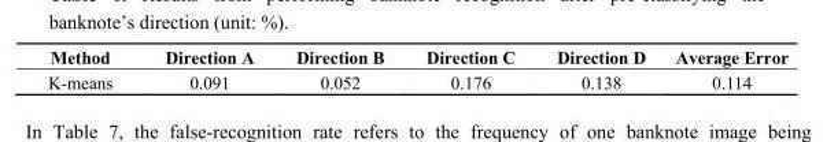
<table><thead><tr><td>Method</td><td>Direction A</td><td>Direction B</td><td>Direction C</td><td>Direction D</td><td>Average Error</td></tr></thead><tbody><tr><td>K-means</td><td>0.091</td><td>0.052</td><td>0.176</td><td>0.138</td><td>0.114</td></tr></tbody></table>